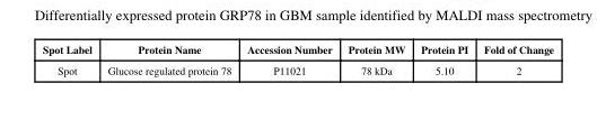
<table><thead><tr><td>Spot Label</td><td>Protein Name</td><td>Accession Number</td><td>Protein MW</td><td>Protein PI</td><td>Fold of Change</td></tr></thead><tbody><tr><td>Spot</td><td>Glucose regulated protein 78</td><td>P11021</td><td>78 kDa</td><td>5.10</td><td>2</td></tr></tbody></table>